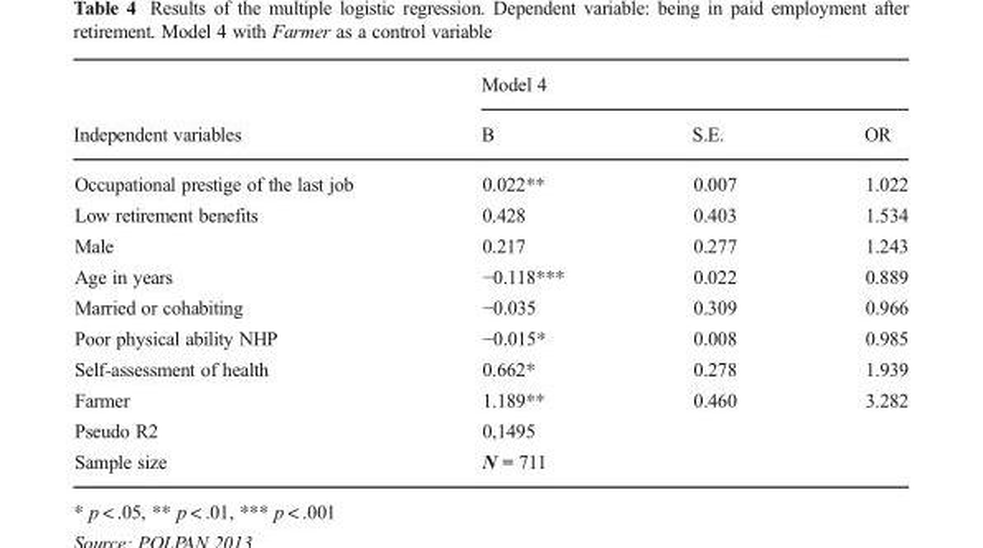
<table><thead><tr><td rowspan="2">Independent variables</td><td colspan="3">Model 4</td></tr><tr><td>B</td><td>S.E.</td><td>OR</td></tr></thead><tbody><tr><td>Occupational prestige of the last job</td><td>0.022**</td><td>0.007</td><td>1.022</td></tr><tr><td>Low retirement benefits</td><td>0.428</td><td>0.403</td><td>1.534</td></tr><tr><td>Male</td><td>0.217</td><td>0.277</td><td>1.243</td></tr><tr><td>Age in years</td><td>−0.118***</td><td>0.022</td><td>0.889</td></tr><tr><td>Married or cohabiting</td><td>−0.035</td><td>0.309</td><td>0.966</td></tr><tr><td>Poor physical ability NHP</td><td>−0.015*</td><td>0.008</td><td>0.985</td></tr><tr><td>Self-assessment of health</td><td>0.662*</td><td>0.278</td><td>1.939</td></tr><tr><td>Farmer</td><td>1.189**</td><td>0.460</td><td>3.282</td></tr><tr><td>Pseudo R2</td><td colspan="3">0,1495</td></tr><tr><td>Sample size</td><td colspan="3">N = 711</td></tr></tbody></table>